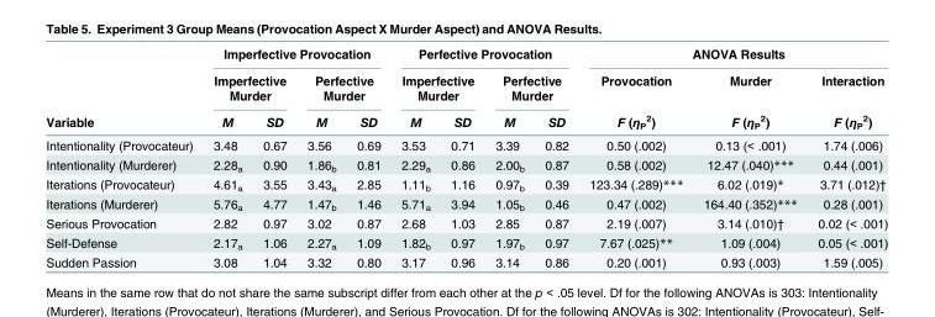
<table><thead><tr><td rowspan="3">Variable</td><td colspan="4">Imperfective Provocation</td><td colspan="4">Perfective Provocation</td><td colspan="3">ANOVA Results</td></tr><tr><td colspan="2">Imperfective Murder</td><td colspan="2">Perfective Murder</td><td colspan="2">Imperfective Murder</td><td colspan="2">Perfective Murder</td><td rowspan="2">Provocation F (η<sub>P</sub> <sup>2</sup>)</td><td rowspan="2">Murder F (η<sub>P</sub> <sup>2</sup>)</td><td rowspan="2">Interaction F (η<sub>P</sub> <sup>2</sup>)</td></tr><tr><td>M</td><td>SD</td><td>M</td><td>SD</td><td>M</td><td>SD</td><td>M</td><td>SD</td></tr></thead><tbody><tr><td>Intentionality (Provocateur)</td><td>3.48</td><td>0.67</td><td>3.56</td><td>0.69</td><td>3.53</td><td>0.71</td><td>3.39</td><td>0.82</td><td>0.50 (.002)</td><td>0.13 (&lt; .001)</td><td>1.74 (.006)</td></tr><tr><td>Intentionality (Murderer)</td><td>2.28<sub>a</sub></td><td>0.90</td><td>1.86<sub>b</sub></td><td>0.81</td><td>2.29<sub>a</sub></td><td>0.86</td><td>2.00<sub>b</sub></td><td>0.87</td><td>0.58 (.002)</td><td>12.47 (.040)***</td><td>0.44 (.001)</td></tr><tr><td>Iterations (Provocateur)</td><td>4.61<sub>a</sub></td><td>3.55</td><td>3.43<sub>a</sub></td><td>2.85</td><td>1.11<sub>b</sub></td><td>1.16</td><td>0.97<sub>b</sub></td><td>0.39</td><td>123.34 (.289)***</td><td>6.02 (.019)*</td><td>3.71 (.012)†</td></tr><tr><td>Iterations (Murderer)</td><td>5.76<sub>a</sub></td><td>4.77</td><td>1.47<sub>b</sub></td><td>1.46</td><td>5.71<sub>a</sub></td><td>3.94</td><td>1.05<sub>b</sub></td><td>0.46</td><td>0.47 (.002)</td><td>164.40 (.352)***</td><td>0.28 (.001)</td></tr><tr><td>Serious Provocation</td><td>2.82</td><td>0.97</td><td>3.02</td><td>0.87</td><td>2.68</td><td>1.03</td><td>2.85</td><td>0.87</td><td>2.19 (.007)</td><td>3.14 (.010)†</td><td>0.02 (&lt; .001)</td></tr><tr><td>Self-Defense</td><td>2.17<sub>a</sub></td><td>1.06</td><td>2.27<sub>a</sub></td><td>1.09</td><td>1.82<sub>b</sub></td><td>0.97</td><td>1.97<sub>b</sub></td><td>0.97</td><td>7.67 (.025)**</td><td>1.09 (.004)</td><td>0.05 (&lt; .001)</td></tr><tr><td>Sudden Passion</td><td>3.08</td><td>1.04</td><td>3.32</td><td>0.80</td><td>3.17</td><td>0.96</td><td>3.14</td><td>0.86</td><td>0.20 (.001)</td><td>0.93 (.003)</td><td>1.59 (.005)</td></tr></tbody></table>